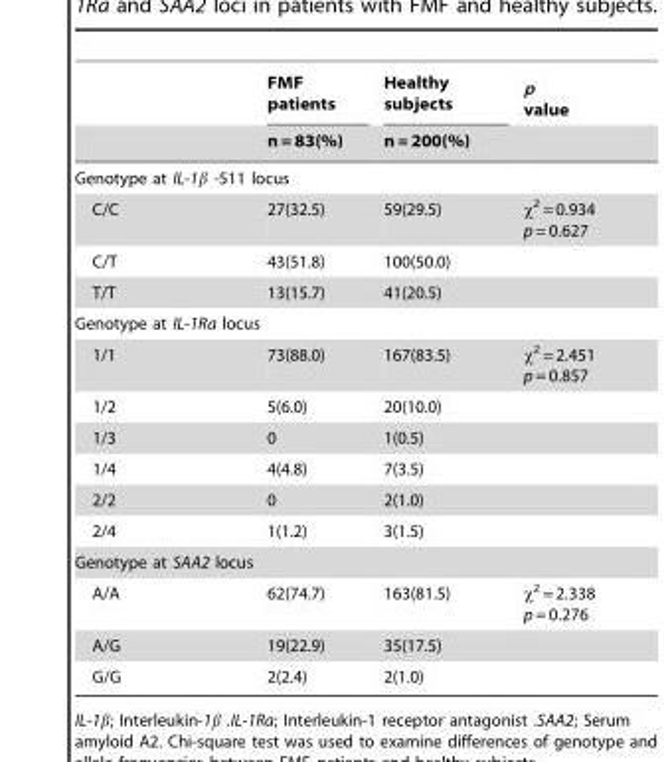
<table><thead><tr><td rowspan="2"></td><td rowspan="2">FMF patients n = 83(%)</td><td rowspan="2">Healthy subjects n = 200(%)</td><td rowspan="2">p value</td></tr><tr></tr></thead><tbody><tr><td colspan="4">Genotype at IL-1β -511 locus</td></tr><tr><td>C/C</td><td>27(32.5)</td><td>59(29.5)</td><td>χ<sup>2</sup> = 0.934 p = 0.627</td></tr><tr><td>C/T</td><td>43(51.8)</td><td>100(50.0)</td><td></td></tr><tr><td>T/T</td><td>13(15.7)</td><td>41(20.5)</td><td></td></tr><tr><td colspan="4">Genotype at IL-1Ra locus</td></tr><tr><td>1/1</td><td>73(88.0)</td><td>167(83.5)</td><td>χ<sup>2</sup> = 2.451 p = 0.857</td></tr><tr><td>1/2</td><td>5(6.0)</td><td>20(10.0)</td><td></td></tr><tr><td>1/3</td><td>0</td><td>1(0.5)</td><td></td></tr><tr><td>1/4</td><td>4(4.8)</td><td>7(3.5)</td><td></td></tr><tr><td>2/2</td><td>0</td><td>2(1.0)</td><td></td></tr><tr><td>2/4</td><td>1(1.2)</td><td>3(1.5)</td><td></td></tr><tr><td colspan="4">Genotype at SAA2 locus</td></tr><tr><td>A/A</td><td>62(74.7)</td><td>163(81.5)</td><td>χ<sup>2</sup> = 2.338 p = 0.276</td></tr><tr><td>A/G</td><td>19(22.9)</td><td>35(17.5)</td><td></td></tr><tr><td>G/G</td><td>2(2.4)</td><td>2(1.0)</td><td></td></tr></tbody></table>